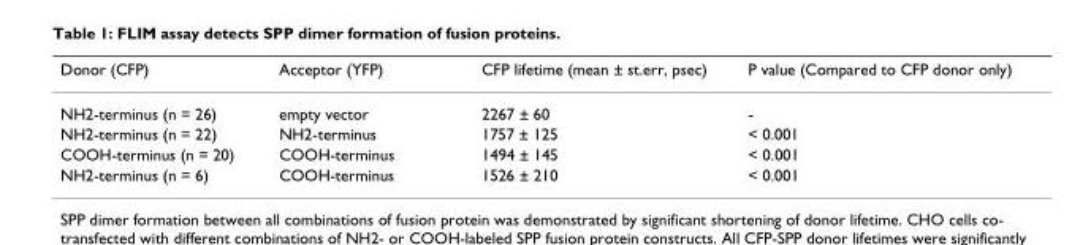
<table><thead><tr><td>Donor (CFP)</td><td>Acceptor (YFP)</td><td>CFP lifetime (mean ± st.err, psec)</td><td>P value (Compared to CFP donor only)</td></tr></thead><tbody><tr><td>NH2-terminus (n = 26)</td><td>empty vector</td><td>2267 ± 60</td><td>-</td></tr><tr><td>NH2-terminus (n = 22)</td><td>NH2-terminus</td><td>1757 ± 125</td><td>&lt; 0.001</td></tr><tr><td>COOH-terminus (n = 20)</td><td>COOH-terminus</td><td>1494 ± 145</td><td>&lt; 0.001</td></tr><tr><td>NH2-terminus (n = 6)</td><td>COOH-terminus</td><td>1526 ± 210</td><td>&lt; 0.001</td></tr></tbody></table>